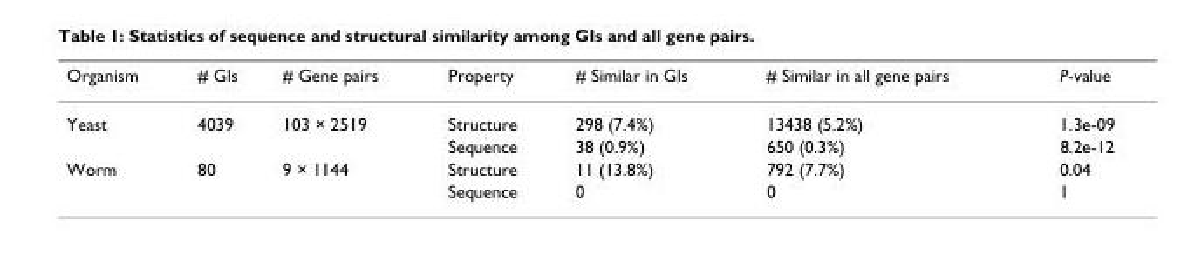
<table><thead><tr><td>Organism</td><td># GIs</td><td># Gene pairs</td><td>Property</td><td># Similar in GIs</td><td># Similar in all gene pairs</td><td>P-value</td></tr></thead><tbody><tr><td rowspan="2">Yeast</td><td>4039</td><td>103 × 2519</td><td>Structure</td><td>298 (7.4%)</td><td>13438 (5.2%)</td><td>1.3e-09</td></tr><tr><td></td><td></td><td>Sequence</td><td>38 (0.9%)</td><td>650 (0.3%)</td><td>8.2e-12</td></tr><tr><td rowspan="2">Worm</td><td>80</td><td>9 × 1144</td><td>Structure</td><td>11 (13.8%)</td><td>792 (7.7%)</td><td>0.04</td></tr><tr><td></td><td></td><td>Sequence</td><td>0</td><td>0</td><td>1</td></tr></tbody></table>